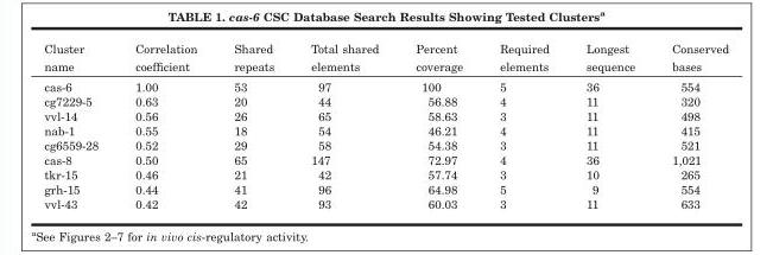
<table><thead><tr><td>Cluster name</td><td>Correlation coefficient</td><td>Shared repeats</td><td>Total shared elements</td><td>Percent coverage</td><td>Required elements</td><td>Longest sequence</td><td>Conserved bases</td></tr></thead><tbody><tr><td>cas-6</td><td>1.00</td><td>53</td><td>97</td><td>100</td><td>5</td><td>36</td><td>554</td></tr><tr><td>cg7229-5</td><td>0.63</td><td>20</td><td>44</td><td>56.88</td><td>4</td><td>11</td><td>320</td></tr><tr><td>vvl-14</td><td>0.56</td><td>26</td><td>65</td><td>58.63</td><td>3</td><td>11</td><td>498</td></tr><tr><td>nab-1</td><td>0.55</td><td>18</td><td>54</td><td>46.21</td><td>4</td><td>11</td><td>415</td></tr><tr><td>cg6559-28</td><td>0.52</td><td>29</td><td>58</td><td>54.38</td><td>3</td><td>11</td><td>521</td></tr><tr><td>cas-8</td><td>0.50</td><td>65</td><td>147</td><td>72.97</td><td>4</td><td>36</td><td>1,021</td></tr><tr><td>tkr-15</td><td>0.46</td><td>21</td><td>42</td><td>57.74</td><td>3</td><td>10</td><td>265</td></tr><tr><td>grh-15</td><td>0.44</td><td>41</td><td>96</td><td>64.98</td><td>5</td><td>9</td><td>554</td></tr><tr><td>vvl-43</td><td>0.42</td><td>42</td><td>93</td><td>60.03</td><td>3</td><td>11</td><td>633</td></tr></tbody></table>